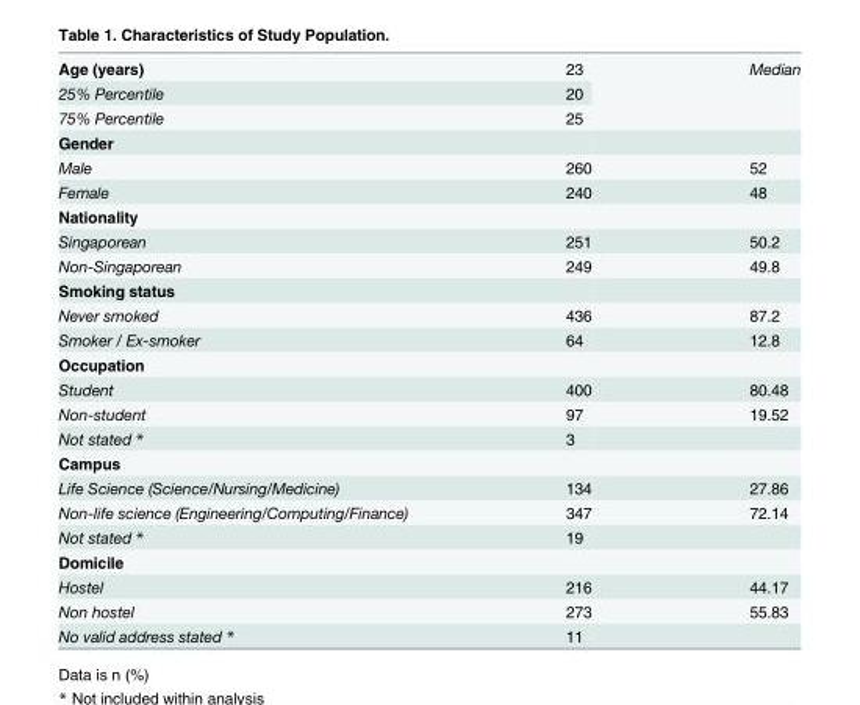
<table><tbody><tr><td>Age (years)</td><td>23</td><td rowspan="3">Median</td></tr><tr><td>25% Percentile</td><td>20</td></tr><tr><td>75% Percentile</td><td>25</td></tr><tr><td colspan="3">Gender</td></tr><tr><td>Male</td><td>260</td><td>52</td></tr><tr><td>Female</td><td>240</td><td>48</td></tr><tr><td colspan="3">Nationality</td></tr><tr><td>Singaporean</td><td>251</td><td>50.2</td></tr><tr><td>Non-Singaporean</td><td>249</td><td>49.8</td></tr><tr><td colspan="3">Smoking status</td></tr><tr><td>Never smoked</td><td>436</td><td>87.2</td></tr><tr><td>Smoker / Ex-smoker</td><td>64</td><td>12.8</td></tr><tr><td colspan="3">Occupation</td></tr><tr><td>Student</td><td>400</td><td>80.48</td></tr><tr><td>Non-student</td><td>97</td><td>19.52</td></tr><tr><td>Not stated *</td><td>3</td><td></td></tr><tr><td colspan="3">Campus</td></tr><tr><td>Life Science (Science/Nursing/Medicine)</td><td>134</td><td>27.86</td></tr><tr><td>Non-life science (Engineering/Computing/Finance)</td><td>347</td><td>72.14</td></tr><tr><td>Not stated *</td><td>19</td><td></td></tr><tr><td colspan="3">Domicile</td></tr><tr><td>Hostel</td><td>216</td><td>44.17</td></tr><tr><td>Non hostel</td><td>273</td><td>55.83</td></tr><tr><td>No valid address stated *</td><td>11</td><td></td></tr></tbody></table>